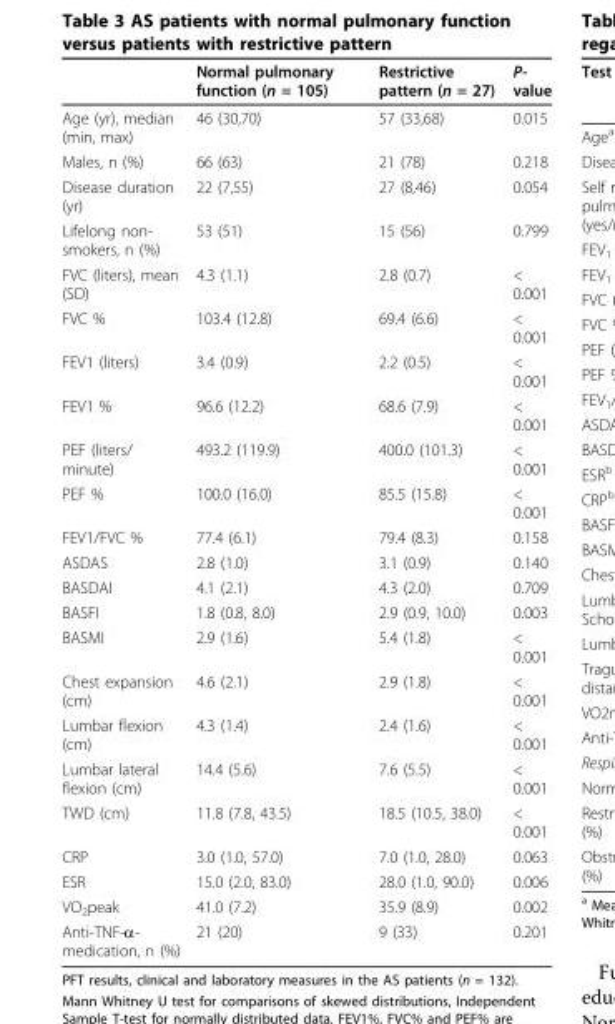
<table><thead><tr><td></td><td>Normal pulmonary function (n = 105)</td><td>Restrictive pattern (n = 27)</td><td>P- value</td></tr></thead><tbody><tr><td>Age (yr), median (min, max)</td><td>46 (30,70)</td><td>57 (33,68)</td><td>0.015</td></tr><tr><td>Males, n (%)</td><td>66 (63)</td><td>21 (78)</td><td>0.218</td></tr><tr><td>Disease duration (yr)</td><td>22 (7,55)</td><td>27 (8,46)</td><td>0.054</td></tr><tr><td>Lifelong non- smokers, n (%)</td><td>53 (51)</td><td>15 (56)</td><td>0.799</td></tr><tr><td>FVC (liters), mean (SD)</td><td>4.3 (1.1)</td><td>2.8 (0.7)</td><td>&lt; 0.001</td></tr><tr><td>FVC %</td><td>103.4 (12.8)</td><td>69.4 (6.6)</td><td>&lt; 0.001</td></tr><tr><td>FEV1 (liters)</td><td>3.4 (0.9)</td><td>2.2 (0.5)</td><td>&lt; 0.001</td></tr><tr><td>FEV1 %</td><td>96.6 (12.2)</td><td>68.6 (7.9)</td><td>&lt; 0.001</td></tr><tr><td>PEF (liters/ minute)</td><td>493.2 (119.9)</td><td>400.0 (101.3)</td><td>&lt; 0.001</td></tr><tr><td>PEF %</td><td>100.0 (16.0)</td><td>85.5 (15.8)</td><td>&lt; 0.001</td></tr><tr><td>FEV1/FVC %</td><td>77.4 (6.1)</td><td>79.4 (8.3)</td><td>0.158</td></tr><tr><td>ASDAS</td><td>2.8 (1.0)</td><td>3.1 (0.9)</td><td>0.140</td></tr><tr><td>BASDAI</td><td>4.1 (2.1)</td><td>4.3 (2.0)</td><td>0.709</td></tr><tr><td>BASFI</td><td>1.8 (0.8, 8.0)</td><td>2.9 (0.9, 10.0)</td><td>0.003</td></tr><tr><td>BASMI</td><td>2.9 (1.6)</td><td>5.4 (1.8)</td><td>&lt; 0.001</td></tr><tr><td>Chest expansion (cm)</td><td>4.6 (2.1)</td><td>2.9 (1.8)</td><td>&lt; 0.001</td></tr><tr><td>Lumbar flexion (cm)</td><td>4.3 (1.4)</td><td>2.4 (1.6)</td><td>&lt; 0.001</td></tr><tr><td>Lumbar lateral flexion (cm)</td><td>14.4 (5.6)</td><td>7.6 (5.5)</td><td>&lt; 0.001</td></tr><tr><td>TWD (cm)</td><td>11.8 (7.8, 43.5)</td><td>18.5 (10.5, 38.0)</td><td>&lt; 0.001</td></tr><tr><td>CRP</td><td>3.0 (1.0, 57.0)</td><td>7.0 (1.0, 28.0)</td><td>0.063</td></tr><tr><td>ESR</td><td>15.0 (2.0, 83.0)</td><td>28.0 (1.0, 90.0)</td><td>0.006</td></tr><tr><td>VO<sub>2</sub>peak</td><td>41.0 (7.2)</td><td>35.9 (8.9)</td><td>0.002</td></tr><tr><td>Anti-TNF-α- medication, n (%)</td><td>21 (20)</td><td>9 (33)</td><td>0.201</td></tr></tbody></table>